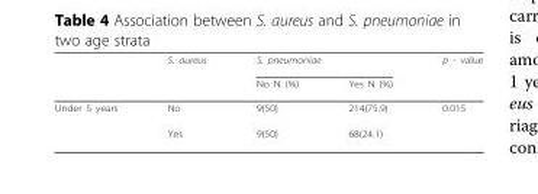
<table><thead><tr><td rowspan="2"></td><td rowspan="2"><sup>S. aureus</sup></td><td colspan="2"><sup>S. pneumoniae</sup></td><td rowspan="2"><sup>p - value</sup></td></tr><tr><td><sup>No N (%)</sup></td><td><sup>Yes N (%)</sup></td></tr></thead><tbody><tr><td rowspan="2"><sup>Under 5 years</sup></td><td><sup>No</sup></td><td><sup>9(50)</sup></td><td><sup>214(75.9)</sup></td><td><sup>0.015</sup></td></tr><tr><td><sup>Yes</sup></td><td><sup>9(50)</sup></td><td><sup>68(24.1)</sup></td><td></td></tr></tbody></table>